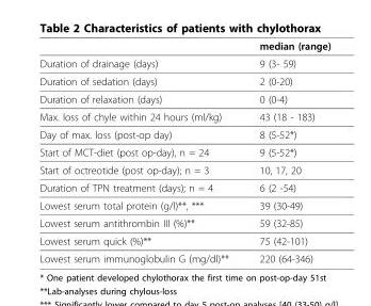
<table><thead><tr><td></td><td>median (range)</td></tr></thead><tbody><tr><td>Duration of drainage (days)</td><td>9 (3- 59)</td></tr><tr><td>Duration of sedation (days)</td><td>2 (0-20)</td></tr><tr><td>Duration of relaxation (days)</td><td>0 (0-4)</td></tr><tr><td>Max. loss of chyle within 24 hours (ml/kg)</td><td>43 (18 - 183)</td></tr><tr><td>Day of max. loss (post-op day)</td><td>8 (5-52*)</td></tr><tr><td>Start of MCT-diet (post op-day), n = 24</td><td>9 (5-52*)</td></tr><tr><td>Start of octreotide (post op-day); n = 3</td><td>10, 17, 20</td></tr><tr><td>Duration of TPN treatment (days); n = 4</td><td>6 (2 -54)</td></tr><tr><td>Lowest serum total protein (g/l)**, ***</td><td>39 (30-49)</td></tr><tr><td>Lowest serum antithrombin III (%)**</td><td>59 (32-85)</td></tr><tr><td>Lowest serum quick (%)**</td><td>75 (42-101)</td></tr><tr><td>Lowest serum immunoglobulin G (mg/dl)**</td><td>220 (64-346)</td></tr></tbody></table>